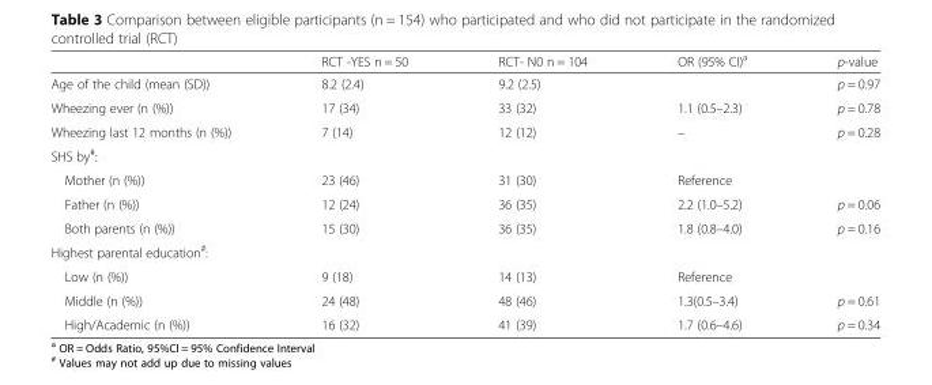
<table><thead><tr><td></td><td>RCT -YES n = 50</td><td>RCT- N0 n = 104</td><td>OR (95% CI)<sup>a</sup></td><td>p-value</td></tr></thead><tbody><tr><td>Age of the child (mean (SD))</td><td>8.2 (2.4)</td><td>9.2 (2.5)</td><td></td><td>p = 0.97</td></tr><tr><td>Wheezing ever (n (%))</td><td>17 (34)</td><td>33 (32)</td><td>1.1 (0.5–2.3)</td><td>p = 0.78</td></tr><tr><td>Wheezing last 12 months (n (%))</td><td>7 (14)</td><td>12 (12)</td><td>–</td><td>p = 0.28</td></tr><tr><td colspan="5">SHS by<sup>#</sup>:</td></tr><tr><td>Mother (n (%))</td><td>23 (46)</td><td>31 (30)</td><td>Reference</td><td></td></tr><tr><td>Father (n (%))</td><td>12 (24)</td><td>36 (35)</td><td>2.2 (1.0–5.2)</td><td>p = 0.06</td></tr><tr><td>Both parents (n (%))</td><td>15 (30)</td><td>36 (35)</td><td>1.8 (0.8–4.0)</td><td>p = 0.16</td></tr><tr><td colspan="5">Highest parental education<sup>#</sup>:</td></tr><tr><td>Low (n (%))</td><td>9 (18)</td><td>14 (13)</td><td>Reference</td><td></td></tr><tr><td>Middle (n (%))</td><td>24 (48)</td><td>48 (46)</td><td>1.3(0.5–3.4)</td><td>p = 0.61</td></tr><tr><td>High/Academic (n (%))</td><td>16 (32)</td><td>41 (39)</td><td>1.7 (0.6–4.6)</td><td>p = 0.34</td></tr></tbody></table>